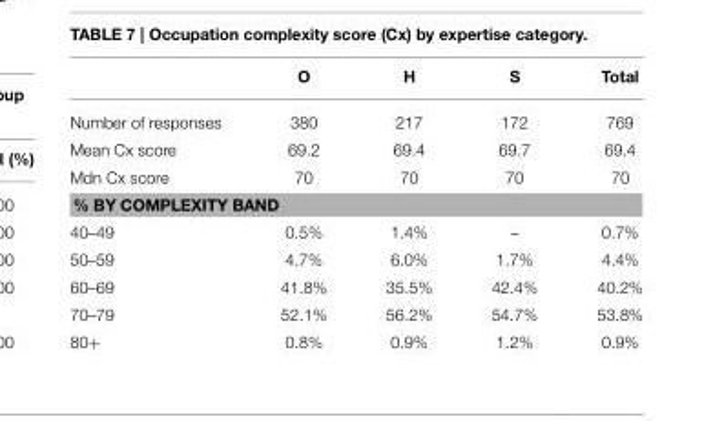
<table><thead><tr><td></td><td>O</td><td>H</td><td>S</td><td>Total</td></tr></thead><tbody><tr><td>Number of responses</td><td>380</td><td>217</td><td>172</td><td>769</td></tr><tr><td>Mean Cx score</td><td>69.2</td><td>69.4</td><td>69.7</td><td>69.4</td></tr><tr><td>Mdn Cx score</td><td>70</td><td>70</td><td>70</td><td>70</td></tr><tr><td colspan="5">% BY COMPLEXITY BAND</td></tr><tr><td>40–49</td><td>0.5%</td><td>1.4%</td><td>–</td><td>0.7%</td></tr><tr><td>50–59</td><td>4.7%</td><td>6.0%</td><td>1.7%</td><td>4.4%</td></tr><tr><td>60–69</td><td>41.8%</td><td>35.5%</td><td>42.4%</td><td>40.2%</td></tr><tr><td>70–79</td><td>52.1%</td><td>56.2%</td><td>54.7%</td><td>53.8%</td></tr><tr><td>80+</td><td>0.8%</td><td>0.9%</td><td>1.2%</td><td>0.9%</td></tr></tbody></table>